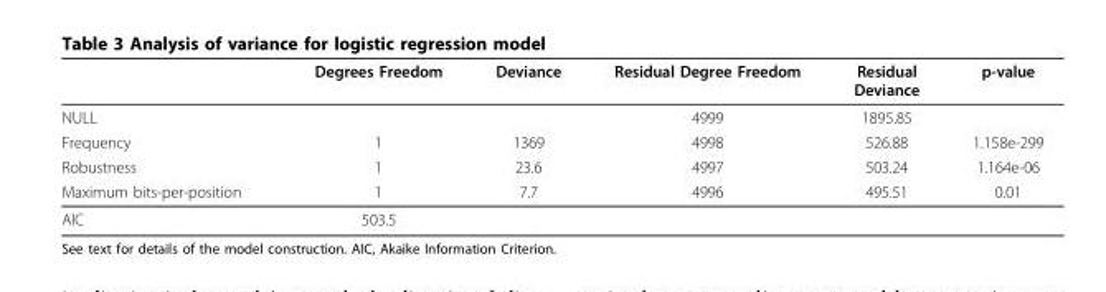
<table><thead><tr><td></td><td>Degrees Freedom</td><td>Deviance</td><td>Residual Degree Freedom</td><td>Residual Deviance</td><td>p-value</td></tr></thead><tbody><tr><td>NULL</td><td></td><td></td><td>4999</td><td>1895.85</td><td></td></tr><tr><td>Frequency</td><td>1</td><td>1369</td><td>4998</td><td>526.88</td><td>1.158e-299</td></tr><tr><td>Robustness</td><td>1</td><td>23.6</td><td>4997</td><td>503.24</td><td>1.164e-06</td></tr><tr><td>Maximum bits-per-position</td><td>1</td><td>7.7</td><td>4996</td><td>495.51</td><td>0.01</td></tr><tr><td>AIC</td><td>503.5</td><td></td><td></td><td></td><td></td></tr></tbody></table>